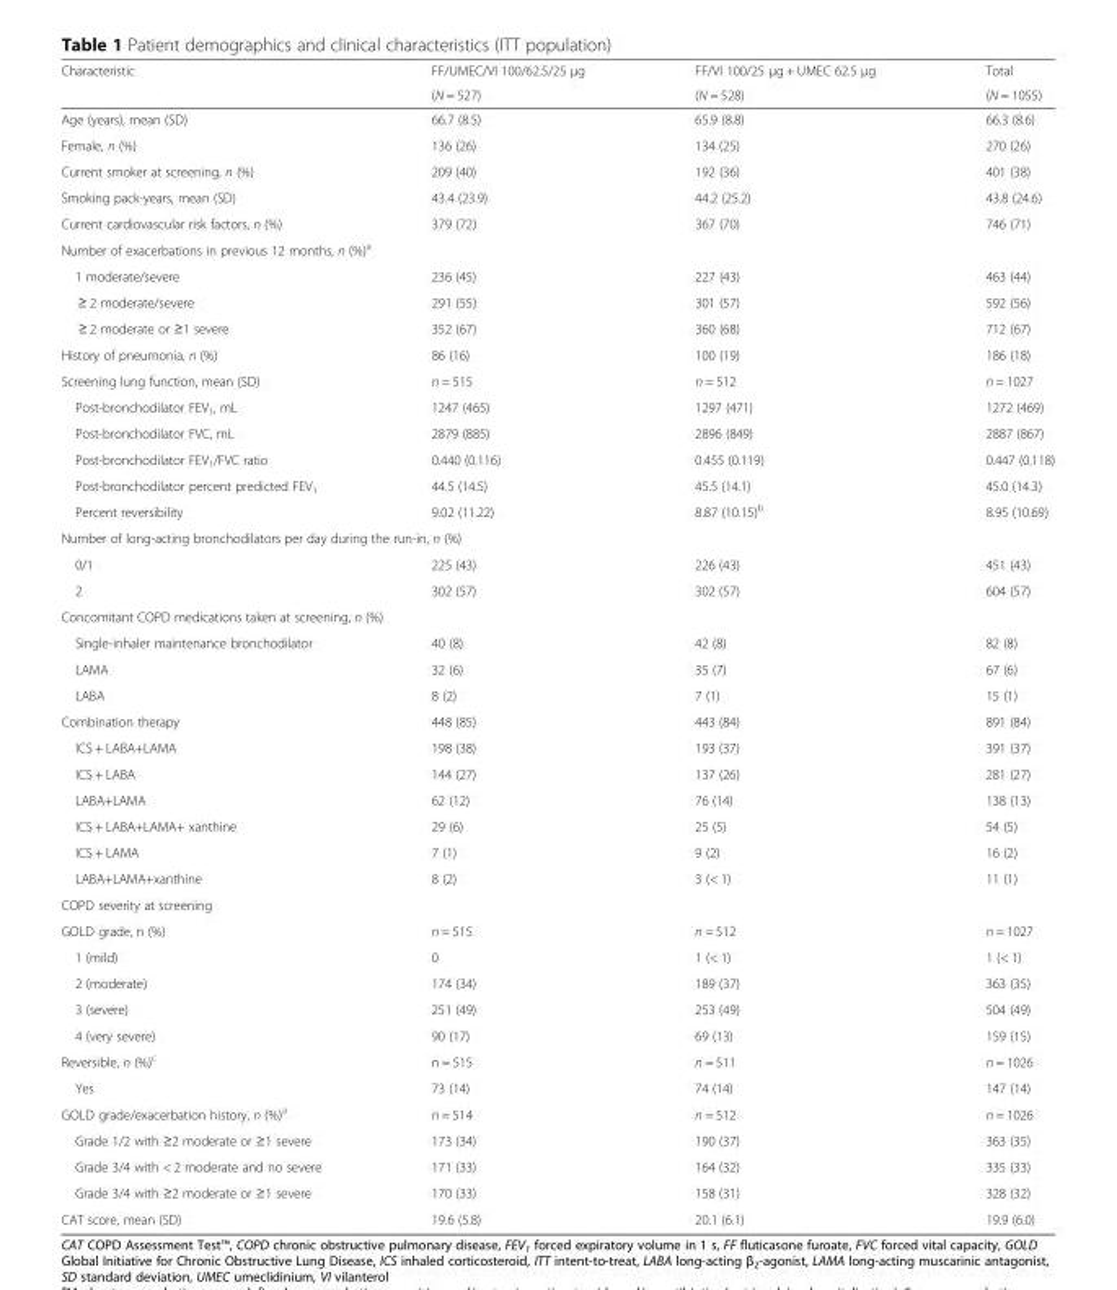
<table><thead><tr><td rowspan="2">Characteristic</td><td rowspan="2">FF/UMEC/VI 100/62.5/25 μg (N = 527)</td><td rowspan="2">FF/VI 100/25 μg + UMEC 62.5 μg (N = 528)</td><td rowspan="2">Total (N = 1055)</td></tr><tr></tr></thead><tbody><tr><td>Age (years), mean (SD)</td><td>66.7 (8.5)</td><td>65.9 (8.8)</td><td>66.3 (8.6)</td></tr><tr><td>Female, n (%)</td><td>136 (26)</td><td>134 (25)</td><td>270 (26)</td></tr><tr><td>Current smoker at screening, n (%)</td><td>209 (40)</td><td>192 (36)</td><td>401 (38)</td></tr><tr><td>Smoking pack-years, mean (SD)</td><td>43.4 (23.9)</td><td>44.2 (25.2)</td><td>43.8 (24.6)</td></tr><tr><td>Current cardiovascular risk factors, n (%)</td><td>379 (72)</td><td>367 (70)</td><td>746 (71)</td></tr><tr><td colspan="4">Number of exacerbations in previous 12 months, n (%)<sup>a</sup></td></tr><tr><td>1 moderate/severe</td><td>236 (45)</td><td>227 (43)</td><td>463 (44)</td></tr><tr><td>≥ 2 moderate/severe</td><td>291 (55)</td><td>301 (57)</td><td>592 (56)</td></tr><tr><td>≥ 2 moderate or ≥1 severe</td><td>352 (67)</td><td>360 (68)</td><td>712 (67)</td></tr><tr><td>History of pneumonia, n (%)</td><td>86 (16)</td><td>100 (19)</td><td>186 (18)</td></tr><tr><td>Screening lung function, mean (SD)</td><td>n = 515</td><td>n = 512</td><td>n = 1027</td></tr><tr><td>Post-bronchodilator FEV<sub>1</sub>, mL</td><td>1247 (465)</td><td>1297 (471)</td><td>1272 (469)</td></tr><tr><td>Post-bronchodilator FVC, mL</td><td>2879 (885)</td><td>2896 (849)</td><td>2887 (867)</td></tr><tr><td>Post-bronchodilator FEV<sub>1</sub>/FVC ratio</td><td>0.440 (0.116)</td><td>0.455 (0.119)</td><td>0.447 (0.118)</td></tr><tr><td>Post-bronchodilator percent predicted FEV<sub>1</sub></td><td>44.5 (14.5)</td><td>45.5 (14.1)</td><td>45.0 (14.3)</td></tr><tr><td>Percent reversibility</td><td>9.02 (11.22)</td><td>8.87 (10.15)<sup>b</sup></td><td>8.95 (10.69)</td></tr><tr><td colspan="4">Number of long-acting bronchodilators per day during the run-in, n (%)</td></tr><tr><td>0/1</td><td>225 (43)</td><td>226 (43)</td><td>451 (43)</td></tr><tr><td>2</td><td>302 (57)</td><td>302 (57)</td><td>604 (57)</td></tr><tr><td colspan="4">Concomitant COPD medications taken at screening, n (%)</td></tr><tr><td>Single-inhaler maintenance bronchodilator</td><td>40 (8)</td><td>42 (8)</td><td>82 (8)</td></tr><tr><td>LAMA</td><td>32 (6)</td><td>35 (7)</td><td>67 (6)</td></tr><tr><td>LABA</td><td>8 (2)</td><td>7 (1)</td><td>15 (1)</td></tr><tr><td>Combination therapy</td><td>448 (85)</td><td>443 (84)</td><td>891 (84)</td></tr><tr><td>ICS + LABA+LAMA</td><td>198 (38)</td><td>193 (37)</td><td>391 (37)</td></tr><tr><td>ICS + LABA</td><td>144 (27)</td><td>137 (26)</td><td>281 (27)</td></tr><tr><td>LABA+LAMA</td><td>62 (12)</td><td>76 (14)</td><td>138 (13)</td></tr><tr><td>ICS + LABA+LAMA+ xanthine</td><td>29 (6)</td><td>25 (5)</td><td>54 (5)</td></tr><tr><td>ICS + LAMA</td><td>7 (1)</td><td>9 (2)</td><td>16 (2)</td></tr><tr><td>LABA+LAMA+xanthine</td><td>8 (2)</td><td>3 (&lt; 1)</td><td>11 (1)</td></tr><tr><td colspan="4">COPD severity at screening</td></tr><tr><td>GOLD grade, n (%)</td><td>n = 515</td><td>n = 512</td><td>n = 1027</td></tr><tr><td>1 (mild)</td><td>0</td><td>1 (&lt; 1)</td><td>1 (&lt; 1)</td></tr><tr><td>2 (moderate)</td><td>174 (34)</td><td>189 (37)</td><td>363 (35)</td></tr><tr><td>3 (severe)</td><td>251 (49)</td><td>253 (49)</td><td>504 (49)</td></tr><tr><td>4 (very severe)</td><td>90 (17)</td><td>69 (13)</td><td>159 (15)</td></tr><tr><td>Reversible, n (%)<sup>c</sup></td><td>n = 515</td><td>n = 511</td><td>n = 1026</td></tr><tr><td>Yes</td><td>73 (14)</td><td>74 (14)</td><td>147 (14)</td></tr><tr><td>GOLD grade/exacerbation history, n (%)<sup>a</sup></td><td>n = 514</td><td>n = 512</td><td>n = 1026</td></tr><tr><td>Grade 1/2 with ≥2 moderate or ≥1 severe</td><td>173 (34)</td><td>190 (37)</td><td>363 (35)</td></tr><tr><td>Grade 3/4 with &lt; 2 moderate and no severe</td><td>171 (33)</td><td>164 (32)</td><td>335 (33)</td></tr><tr><td>Grade 3/4 with ≥2 moderate or ≥1 severe</td><td>170 (33)</td><td>158 (31)</td><td>328 (32)</td></tr><tr><td>CAT score, mean (SD)</td><td>19.6 (5.8)</td><td>20.1 (6.1)</td><td>19.9 (6.0)</td></tr></tbody></table>